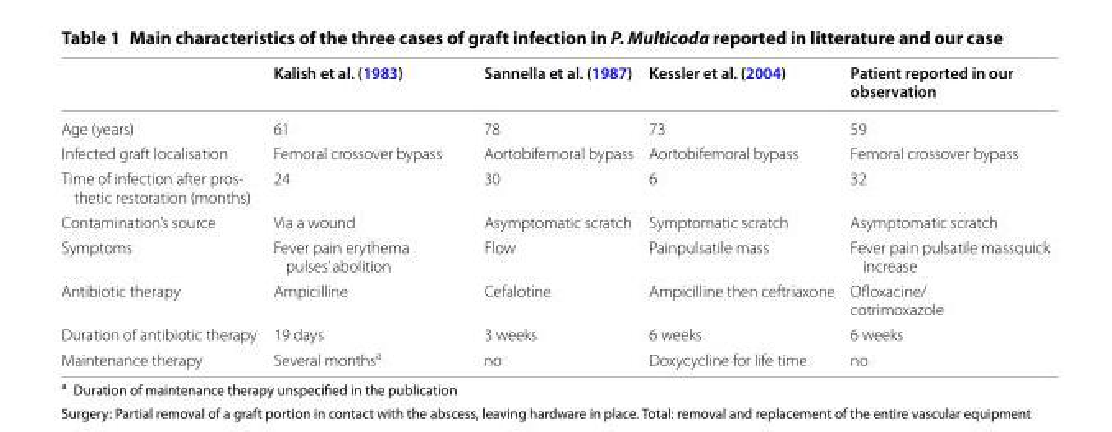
<table><thead><tr><td></td><td>Kalish et al. (1983)</td><td>Sannella et al. (1987)</td><td>Kessler et al. (2004)</td><td>Patient reported in our observation</td></tr></thead><tbody><tr><td>Age (years)</td><td>61</td><td>78</td><td>73</td><td>59</td></tr><tr><td>Infected graft localisation</td><td>Femoral crossover bypass</td><td>Aortobifemoral bypass</td><td>Aortobifemoral bypass</td><td>Femoral crossover bypass</td></tr><tr><td>Time of infection after pros- thetic restoration (months)</td><td>24</td><td>30</td><td>6</td><td>32</td></tr><tr><td>Contamination’s source</td><td>Via a wound</td><td>Asymptomatic scratch</td><td>Symptomatic scratch</td><td>Asymptomatic scratch</td></tr><tr><td>Symptoms</td><td>Fever pain erythema pulses’ abolition</td><td>Flow</td><td>Painpulsatile mass</td><td>Fever pain pulsatile massquick increase</td></tr><tr><td>Antibiotic therapy</td><td>Ampicilline</td><td>Cefalotine</td><td>Ampicilline then ceftriaxone</td><td>Ofloxacine/ cotrimoxazole</td></tr><tr><td>Duration of antibiotic therapy</td><td>19 days</td><td>3 weeks</td><td>6 weeks</td><td>6 weeks</td></tr><tr><td>Maintenance therapy</td><td>Several months<sup>a</sup></td><td>no</td><td>Doxycycline for life time</td><td>no</td></tr></tbody></table>